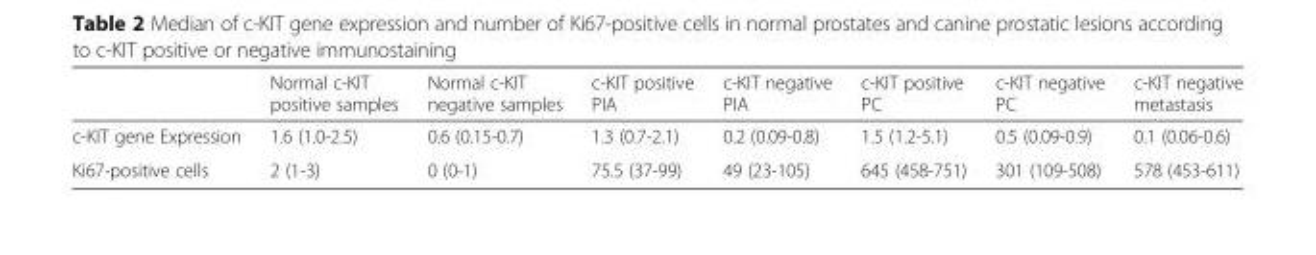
<table><thead><tr><td></td><td>Normal c-KIT positive samples</td><td>Normal c-KIT negative samples</td><td>c-KIT positive PIA</td><td>c-KIT negative PIA</td><td>c-KIT positive PC</td><td>c-KIT negative PC</td><td>c-KIT negative metastasis</td></tr></thead><tbody><tr><td>c-KIT gene Expression</td><td>1.6 (1.0-2.5)</td><td>0.6 (0.15-0.7)</td><td>1.3 (0.7-2.1)</td><td>0.2 (0.09-0.8)</td><td>1.5 (1.2-5.1)</td><td>0.5 (0.09-0.9)</td><td>0.1 (0.06-0.6)</td></tr><tr><td>Ki67-positive cells</td><td>2 (1-3)</td><td>0 (0-1)</td><td>75.5 (37-99)</td><td>49 (23-105)</td><td>645 (458-751)</td><td>301 (109-508)</td><td>578 (453-611)</td></tr></tbody></table>